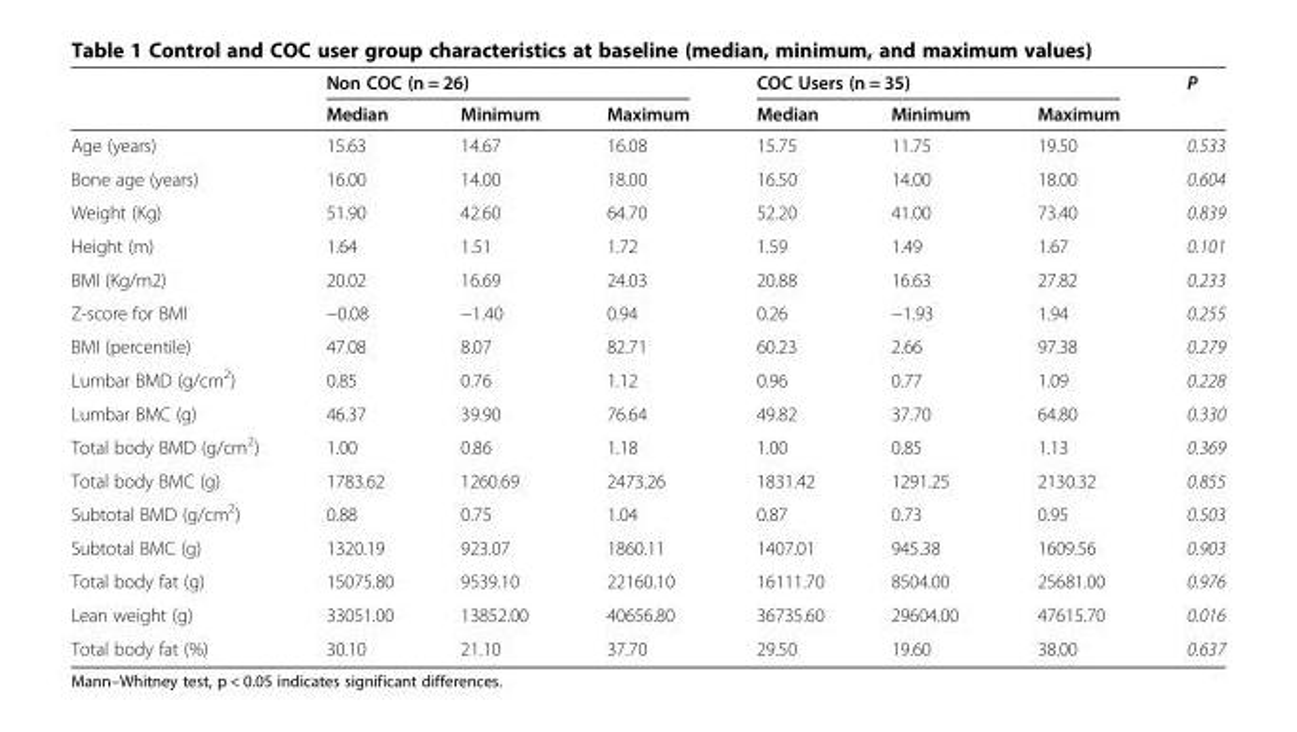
<table><thead><tr><td rowspan="2"></td><td colspan="3">Non COC (n = 26)</td><td colspan="3">COC Users (n = 35)</td><td rowspan="2">P</td></tr><tr><td>Median</td><td>Minimum</td><td>Maximum</td><td>Median</td><td>Minimum</td><td>Maximum</td></tr></thead><tbody><tr><td>Age (years)</td><td>15.63</td><td>14.67</td><td>16.08</td><td>15.75</td><td>11.75</td><td>19.50</td><td>0.533</td></tr><tr><td>Bone age (years)</td><td>16.00</td><td>14.00</td><td>18.00</td><td>16.50</td><td>14.00</td><td>18.00</td><td>0.604</td></tr><tr><td>Weight (Kg)</td><td>51.90</td><td>42.60</td><td>64.70</td><td>52.20</td><td>41.00</td><td>73.40</td><td>0.839</td></tr><tr><td>Height (m)</td><td>1.64</td><td>1.51</td><td>1.72</td><td>1.59</td><td>1.49</td><td>1.67</td><td>0.101</td></tr><tr><td>BMI (Kg/m2)</td><td>20.02</td><td>16.69</td><td>24.03</td><td>20.88</td><td>16.63</td><td>27.82</td><td>0.233</td></tr><tr><td>Z-score for BMI</td><td>−0.08</td><td>−1.40</td><td>0.94</td><td>0.26</td><td>−1.93</td><td>1.94</td><td>0.255</td></tr><tr><td>BMI (percentile)</td><td>47.08</td><td>8.07</td><td>82.71</td><td>60.23</td><td>2.66</td><td>97.38</td><td>0.279</td></tr><tr><td>Lumbar BMD (g/cm<sup>2</sup>)</td><td>0.85</td><td>0.76</td><td>1.12</td><td>0.96</td><td>0.77</td><td>1.09</td><td>0.228</td></tr><tr><td>Lumbar BMC (g)</td><td>46.37</td><td>39.90</td><td>76.64</td><td>49.82</td><td>37.70</td><td>64.80</td><td>0.330</td></tr><tr><td>Total body BMD (g/cm<sup>2</sup>)</td><td>1.00</td><td>0.86</td><td>1.18</td><td>1.00</td><td>0.85</td><td>1.13</td><td>0.369</td></tr><tr><td>Total body BMC (g)</td><td>1783.62</td><td>1260.69</td><td>2473.26</td><td>1831.42</td><td>1291.25</td><td>2130.32</td><td>0.855</td></tr><tr><td>Subtotal BMD (g/cm<sup>2</sup>)</td><td>0.88</td><td>0.75</td><td>1.04</td><td>0.87</td><td>0.73</td><td>0.95</td><td>0.503</td></tr><tr><td>Subtotal BMC (g)</td><td>1320.19</td><td>923.07</td><td>1860.11</td><td>1407.01</td><td>945.38</td><td>1609.56</td><td>0.903</td></tr><tr><td>Total body fat (g)</td><td>15075.80</td><td>9539.10</td><td>22160.10</td><td>16111.70</td><td>8504.00</td><td>25681.00</td><td>0.976</td></tr><tr><td>Lean weight (g)</td><td>33051.00</td><td>13852.00</td><td>40656.80</td><td>36735.60</td><td>29604.00</td><td>47615.70</td><td>0.016</td></tr><tr><td>Total body fat (%)</td><td>30.10</td><td>21.10</td><td>37.70</td><td>29.50</td><td>19.60</td><td>38.00</td><td>0.637</td></tr></tbody></table>